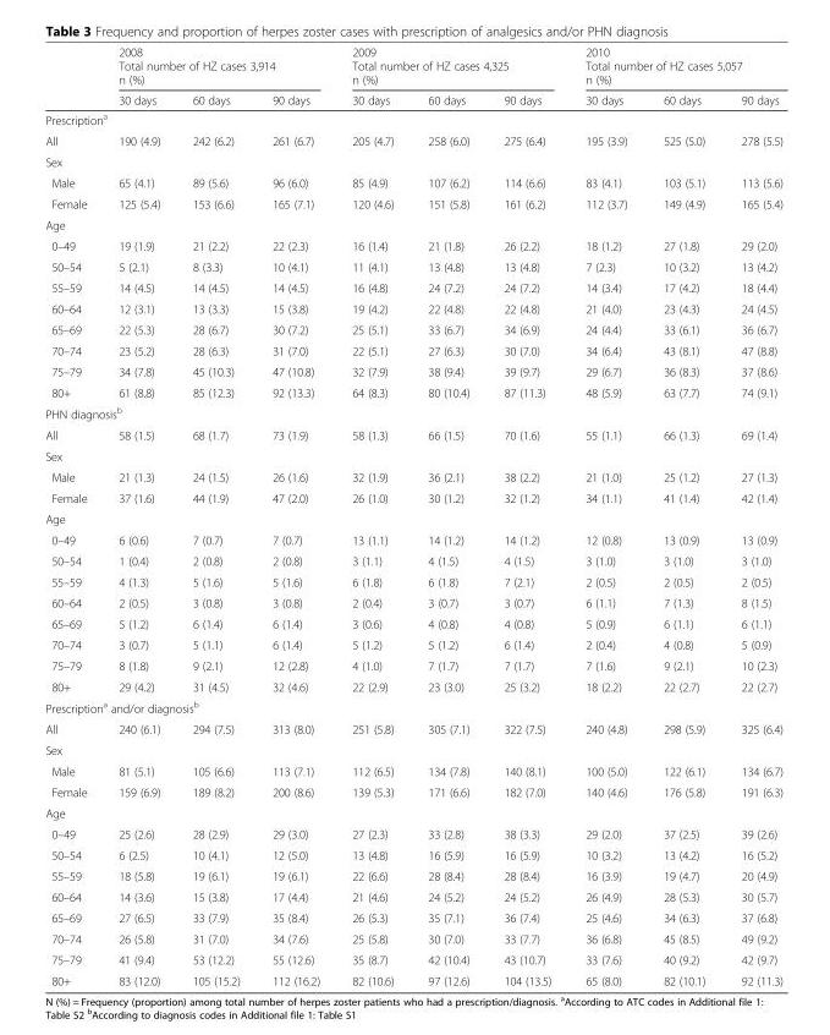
<table><thead><tr><td rowspan="4"></td><td rowspan="3" colspan="3">2008 Total number of HZ cases 3,914 n (%)</td><td rowspan="3" colspan="3">2009 Total number of HZ cases 4,325 n (%)</td><td rowspan="3" colspan="3">2010 Total number of HZ cases 5,057 n (%)</td></tr><tr></tr><tr></tr><tr><td>30 days</td><td>60 days</td><td>90 days</td><td>30 days</td><td>60 days</td><td>90 days</td><td>30 days</td><td>60 days</td><td>90 days</td></tr></thead><tbody><tr><td colspan="10">Prescription<sup>a</sup></td></tr><tr><td>All</td><td>190 (4.9)</td><td>242 (6.2)</td><td>261 (6.7)</td><td>205 (4.7)</td><td>258 (6.0)</td><td>275 (6.4)</td><td>195 (3.9)</td><td>525 (5.0)</td><td>278 (5.5)</td></tr><tr><td colspan="10">Sex</td></tr><tr><td>Male</td><td>65 (4.1)</td><td>89 (5.6)</td><td>96 (6.0)</td><td>85 (4.9)</td><td>107 (6.2)</td><td>114 (6.6)</td><td>83 (4.1)</td><td>103 (5.1)</td><td>113 (5.6)</td></tr><tr><td>Female</td><td>125 (5.4)</td><td>153 (6.6)</td><td>165 (7.1)</td><td>120 (4.6)</td><td>151 (5.8)</td><td>161 (6.2)</td><td>112 (3.7)</td><td>149 (4.9)</td><td>165 (5.4)</td></tr><tr><td colspan="10">Age</td></tr><tr><td>0–49</td><td>19 (1.9)</td><td>21 (2.2)</td><td>22 (2.3)</td><td>16 (1.4)</td><td>21 (1.8)</td><td>26 (2.2)</td><td>18 (1.2)</td><td>27 (1.8)</td><td>29 (2.0)</td></tr><tr><td>50–54</td><td>5 (2.1)</td><td>8 (3.3)</td><td>10 (4.1)</td><td>11 (4.1)</td><td>13 (4.8)</td><td>13 (4.8)</td><td>7 (2.3)</td><td>10 (3.2)</td><td>13 (4.2)</td></tr><tr><td>55–59</td><td>14 (4.5)</td><td>14 (4.5)</td><td>14 (4.5)</td><td>16 (4.8)</td><td>24 (7.2)</td><td>24 (7.2)</td><td>14 (3.4)</td><td>17 (4.2)</td><td>18 (4.4)</td></tr><tr><td>60–64</td><td>12 (3.1)</td><td>13 (3.3)</td><td>15 (3.8)</td><td>19 (4.2)</td><td>22 (4.8)</td><td>22 (4.8)</td><td>21 (4.0)</td><td>23 (4.3)</td><td>24 (4.5)</td></tr><tr><td>65–69</td><td>22 (5.3)</td><td>28 (6.7)</td><td>30 (7.2)</td><td>25 (5.1)</td><td>33 (6.7)</td><td>34 (6.9)</td><td>24 (4.4)</td><td>33 (6.1)</td><td>36 (6.7)</td></tr><tr><td>70–74</td><td>23 (5.2)</td><td>28 (6.3)</td><td>31 (7.0)</td><td>22 (5.1)</td><td>27 (6.3)</td><td>30 (7.0)</td><td>34 (6.4)</td><td>43 (8.1)</td><td>47 (8.8)</td></tr><tr><td>75–79</td><td>34 (7.8)</td><td>45 (10.3)</td><td>47 (10.8)</td><td>32 (7.9)</td><td>38 (9.4)</td><td>39 (9.7)</td><td>29 (6.7)</td><td>36 (8.3)</td><td>37 (8.6)</td></tr><tr><td>80+</td><td>61 (8.8)</td><td>85 (12.3)</td><td>92 (13.3)</td><td>64 (8.3)</td><td>80 (10.4)</td><td>87 (11.3)</td><td>48 (5.9)</td><td>63 (7.7)</td><td>74 (9.1)</td></tr><tr><td colspan="10">PHN diagnosis<sup>b</sup></td></tr><tr><td>All</td><td>58 (1.5)</td><td>68 (1.7)</td><td>73 (1.9)</td><td>58 (1.3)</td><td>66 (1.5)</td><td>70 (1.6)</td><td>55 (1.1)</td><td>66 (1.3)</td><td>69 (1.4)</td></tr><tr><td colspan="10">Sex</td></tr><tr><td>Male</td><td>21 (1.3)</td><td>24 (1.5)</td><td>26 (1.6)</td><td>32 (1.9)</td><td>36 (2.1)</td><td>38 (2.2)</td><td>21 (1.0)</td><td>25 (1.2)</td><td>27 (1.3)</td></tr><tr><td>Female</td><td>37 (1.6)</td><td>44 (1.9)</td><td>47 (2.0)</td><td>26 (1.0)</td><td>30 (1.2)</td><td>32 (1.2)</td><td>34 (1.1)</td><td>41 (1.4)</td><td>42 (1.4)</td></tr><tr><td colspan="10">Age</td></tr><tr><td>0–49</td><td>6 (0.6)</td><td>7 (0.7)</td><td>7 (0.7)</td><td>13 (1.1)</td><td>14 (1.2)</td><td>14 (1.2)</td><td>12 (0.8)</td><td>13 (0.9)</td><td>13 (0.9)</td></tr><tr><td>50–54</td><td>1 (0.4)</td><td>2 (0.8)</td><td>2 (0.8)</td><td>3 (1.1)</td><td>4 (1.5)</td><td>4 (1.5)</td><td>3 (1.0)</td><td>3 (1.0)</td><td>3 (1.0)</td></tr><tr><td>55–59</td><td>4 (1.3)</td><td>5 (1.6)</td><td>5 (1.6)</td><td>6 (1.8)</td><td>6 (1.8)</td><td>7 (2.1)</td><td>2 (0.5)</td><td>2 (0.5)</td><td>2 (0.5)</td></tr><tr><td>60–64</td><td>2 (0.5)</td><td>3 (0.8)</td><td>3 (0.8)</td><td>2 (0.4)</td><td>3 (0.7)</td><td>3 (0.7)</td><td>6 (1.1)</td><td>7 (1.3)</td><td>8 (1.5)</td></tr><tr><td>65–69</td><td>5 (1.2)</td><td>6 (1.4)</td><td>6 (1.4)</td><td>3 (0.6)</td><td>4 (0.8)</td><td>4 (0.8)</td><td>5 (0.9)</td><td>6 (1.1)</td><td>6 (1.1)</td></tr><tr><td>70–74</td><td>3 (0.7)</td><td>5 (1.1)</td><td>6 (1.4)</td><td>5 (1.2)</td><td>5 (1.2)</td><td>6 (1.4)</td><td>2 (0.4)</td><td>4 (0.8)</td><td>5 (0.9)</td></tr><tr><td>75–79</td><td>8 (1.8)</td><td>9 (2.1)</td><td>12 (2.8)</td><td>4 (1.0)</td><td>7 (1.7)</td><td>7 (1.7)</td><td>7 (1.6)</td><td>9 (2.1)</td><td>10 (2.3)</td></tr><tr><td>80+</td><td>29 (4.2)</td><td>31 (4.5)</td><td>32 (4.6)</td><td>22 (2.9)</td><td>23 (3.0)</td><td>25 (3.2)</td><td>18 (2.2)</td><td>22 (2.7)</td><td>22 (2.7)</td></tr><tr><td colspan="10">Prescription<sup>a</sup> and/or diagnosis<sup>b</sup></td></tr><tr><td>All</td><td>240 (6.1)</td><td>294 (7.5)</td><td>313 (8.0)</td><td>251 (5.8)</td><td>305 (7.1)</td><td>322 (7.5)</td><td>240 (4.8)</td><td>298 (5.9)</td><td>325 (6.4)</td></tr><tr><td colspan="10">Sex</td></tr><tr><td>Male</td><td>81 (5.1)</td><td>105 (6.6)</td><td>113 (7.1)</td><td>112 (6.5)</td><td>134 (7.8)</td><td>140 (8.1)</td><td>100 (5.0)</td><td>122 (6.1)</td><td>134 (6.7)</td></tr><tr><td>Female</td><td>159 (6.9)</td><td>189 (8.2)</td><td>200 (8.6)</td><td>139 (5.3)</td><td>171 (6.6)</td><td>182 (7.0)</td><td>140 (4.6)</td><td>176 (5.8)</td><td>191 (6.3)</td></tr><tr><td colspan="10">Age</td></tr><tr><td>0–49</td><td>25 (2.6)</td><td>28 (2.9)</td><td>29 (3.0)</td><td>27 (2.3)</td><td>33 (2.8)</td><td>38 (3.3)</td><td>29 (2.0)</td><td>37 (2.5)</td><td>39 (2.6)</td></tr><tr><td>50–54</td><td>6 (2.5)</td><td>10 (4.1)</td><td>12 (5.0)</td><td>13 (4.8)</td><td>16 (5.9)</td><td>16 (5.9)</td><td>10 (3.2)</td><td>13 (4.2)</td><td>16 (5.2)</td></tr><tr><td>55–59</td><td>18 (5.8)</td><td>19 (6.1)</td><td>19 (6.1)</td><td>22 (6.6)</td><td>28 (8.4)</td><td>28 (8.4)</td><td>16 (3.9)</td><td>19 (4.7)</td><td>20 (4.9)</td></tr><tr><td>60–64</td><td>14 (3.6)</td><td>15 (3.8)</td><td>17 (4.4)</td><td>21 (4.6)</td><td>24 (5.2)</td><td>24 (5.2)</td><td>26 (4.9)</td><td>28 (5.3)</td><td>30 (5.7)</td></tr><tr><td>65–69</td><td>27 (6.5)</td><td>33 (7.9)</td><td>35 (8.4)</td><td>26 (5.3)</td><td>35 (7.1)</td><td>36 (7.4)</td><td>25 (4.6)</td><td>34 (6.3)</td><td>37 (6.8)</td></tr><tr><td>70–74</td><td>26 (5.8)</td><td>31 (7.0)</td><td>34 (7.6)</td><td>25 (5.8)</td><td>30 (7.0)</td><td>33 (7.7)</td><td>36 (6.8)</td><td>45 (8.5)</td><td>49 (9.2)</td></tr><tr><td>75–79</td><td>41 (9.4)</td><td>53 (12.2)</td><td>55 (12.6)</td><td>35 (8.7)</td><td>42 (10.4)</td><td>43 (10.7)</td><td>33 (7.6)</td><td>40 (9.2)</td><td>42 (9.7)</td></tr><tr><td>80+</td><td>83 (12.0)</td><td>105 (15.2)</td><td>112 (16.2)</td><td>82 (10.6)</td><td>97 (12.6)</td><td>104 (13.5)</td><td>65 (8.0)</td><td>82 (10.1)</td><td>92 (11.3)</td></tr></tbody></table>